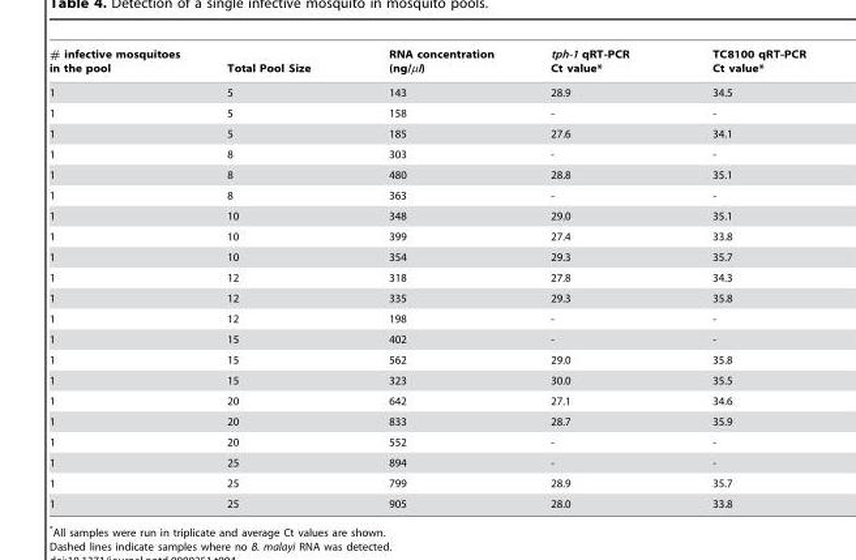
<table><thead><tr><td># infective mosquitoes in the pool</td><td>Total Pool Size</td><td>RNA concentration (ng/µl)</td><td>tph-1 qRT-PCR Ct value*</td><td>TC8100 qRT-PCR Ct value*</td></tr></thead><tbody><tr><td>1</td><td>5</td><td>143</td><td>28.9</td><td>34.5</td></tr><tr><td>1</td><td>5</td><td>158</td><td>-</td><td>-</td></tr><tr><td>1</td><td>5</td><td>185</td><td>27.6</td><td>34.1</td></tr><tr><td>1</td><td>8</td><td>303</td><td>-</td><td>-</td></tr><tr><td>1</td><td>8</td><td>480</td><td>28.8</td><td>35.1</td></tr><tr><td>1</td><td>8</td><td>363</td><td>-</td><td>-</td></tr><tr><td>1</td><td>10</td><td>348</td><td>29.0</td><td>35.1</td></tr><tr><td>1</td><td>10</td><td>399</td><td>27.4</td><td>33.8</td></tr><tr><td>1</td><td>10</td><td>354</td><td>29.3</td><td>35.7</td></tr><tr><td>1</td><td>12</td><td>318</td><td>27.8</td><td>34.3</td></tr><tr><td>1</td><td>12</td><td>335</td><td>29.3</td><td>35.8</td></tr><tr><td>1</td><td>12</td><td>198</td><td>-</td><td>-</td></tr><tr><td>1</td><td>15</td><td>402</td><td>-</td><td>-</td></tr><tr><td>1</td><td>15</td><td>562</td><td>29.0</td><td>35.8</td></tr><tr><td>1</td><td>15</td><td>323</td><td>30.0</td><td>35.5</td></tr><tr><td>1</td><td>20</td><td>642</td><td>27.1</td><td>34.6</td></tr><tr><td>1</td><td>20</td><td>833</td><td>28.7</td><td>35.9</td></tr><tr><td>1</td><td>20</td><td>552</td><td>-</td><td>-</td></tr><tr><td>1</td><td>25</td><td>894</td><td>-</td><td>-</td></tr><tr><td>1</td><td>25</td><td>799</td><td>28.9</td><td>35.7</td></tr><tr><td>1</td><td>25</td><td>905</td><td>28.0</td><td>33.8</td></tr></tbody></table>